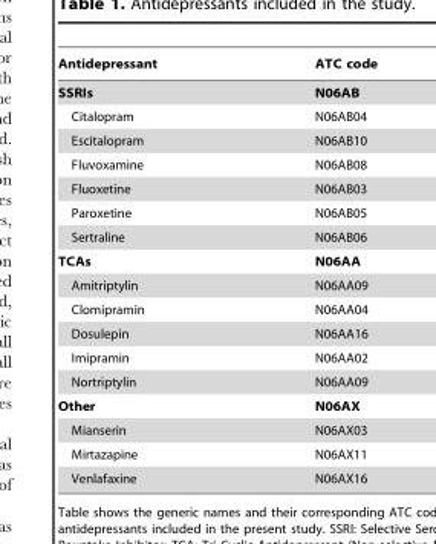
<table><thead><tr><td>Antidepressant</td><td>ATC code</td></tr></thead><tbody><tr><td>SSRIs</td><td>N06AB</td></tr><tr><td>Citalopram</td><td>N06AB04</td></tr><tr><td>Escitalopram</td><td>N06AB10</td></tr><tr><td>Fluvoxamine</td><td>N06AB08</td></tr><tr><td>Fluoxetine</td><td>N06AB03</td></tr><tr><td>Paroxetine</td><td>N06AB05</td></tr><tr><td>Sertraline</td><td>N06AB06</td></tr><tr><td>TCAs</td><td>N06AA</td></tr><tr><td>Amitriptylin</td><td>N06AA09</td></tr><tr><td>Clomipramin</td><td>N06AA04</td></tr><tr><td>Dosulepin</td><td>N06AA16</td></tr><tr><td>Imipramin</td><td>N06AA02</td></tr><tr><td>Nortriptylin</td><td>N06AA09</td></tr><tr><td>Other</td><td>N06AX</td></tr><tr><td>Mianserin</td><td>N06AX03</td></tr><tr><td>Mirtazapine</td><td>N06AX11</td></tr><tr><td>Venlafaxine</td><td>N06AX16</td></tr></tbody></table>